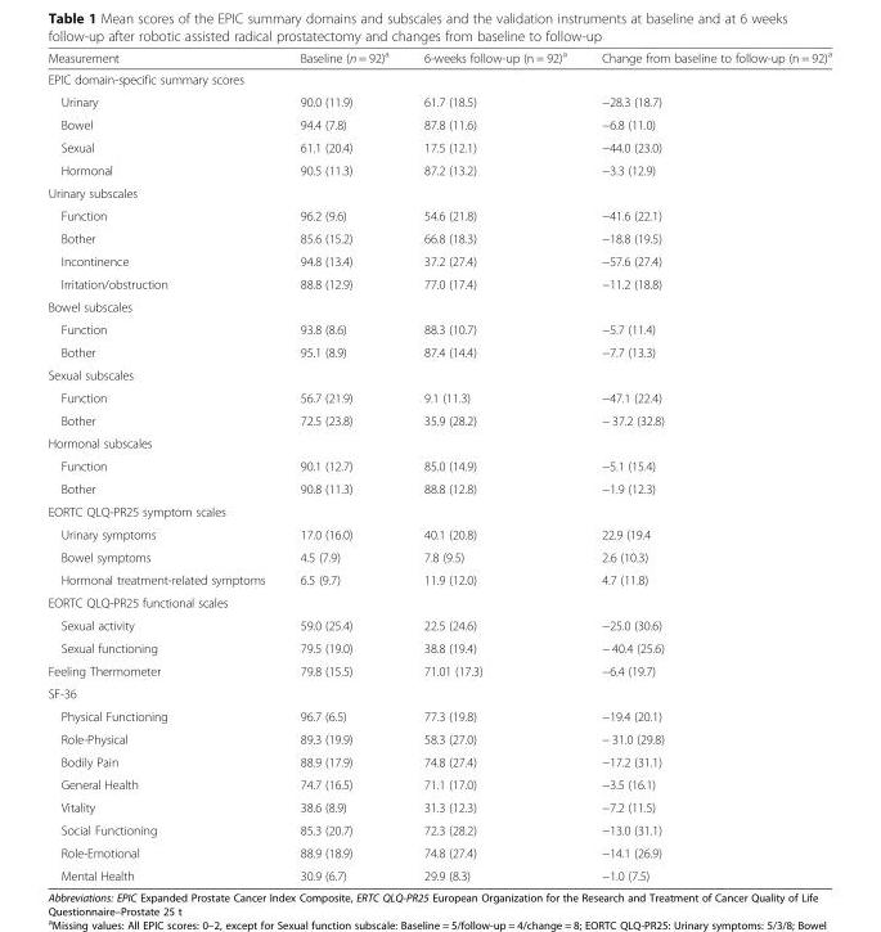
<table><thead><tr><td>Measurement</td><td>Baseline (n = 92)<sup>a</sup></td><td>6-weeks follow-up (n = 92)<sup>a</sup></td><td>Change from baseline to follow-up (n = 92)<sup>a</sup></td></tr></thead><tbody><tr><td colspan="4">EPIC domain-specific summary scores</td></tr><tr><td>Urinary</td><td>90.0 (11.9)</td><td>61.7 (18.5)</td><td>−28.3 (18.7)</td></tr><tr><td>Bowel</td><td>94.4 (7.8)</td><td>87.8 (11.6)</td><td>−6.8 (11.0)</td></tr><tr><td>Sexual</td><td>61.1 (20.4)</td><td>17.5 (12.1)</td><td>−44.0 (23.0)</td></tr><tr><td>Hormonal</td><td>90.5 (11.3)</td><td>87.2 (13.2)</td><td>−3.3 (12.9)</td></tr><tr><td colspan="4">Urinary subscales</td></tr><tr><td>Function</td><td>96.2 (9.6)</td><td>54.6 (21.8)</td><td>−41.6 (22.1)</td></tr><tr><td>Bother</td><td>85.6 (15.2)</td><td>66.8 (18.3)</td><td>−18.8 (19.5)</td></tr><tr><td>Incontinence</td><td>94.8 (13.4)</td><td>37.2 (27.4)</td><td>−57.6 (27.4)</td></tr><tr><td>Irritation/obstruction</td><td>88.8 (12.9)</td><td>77.0 (17.4)</td><td>−11.2 (18.8)</td></tr><tr><td colspan="4">Bowel subscales</td></tr><tr><td>Function</td><td>93.8 (8.6)</td><td>88.3 (10.7)</td><td>−5.7 (11.4)</td></tr><tr><td>Bother</td><td>95.1 (8.9)</td><td>87.4 (14.4)</td><td>−7.7 (13.3)</td></tr><tr><td colspan="4">Sexual subscales</td></tr><tr><td>Function</td><td>56.7 (21.9)</td><td>9.1 (11.3)</td><td>−47.1 (22.4)</td></tr><tr><td>Bother</td><td>72.5 (23.8)</td><td>35.9 (28.2)</td><td>− 37.2 (32.8)</td></tr><tr><td colspan="4">Hormonal subscales</td></tr><tr><td>Function</td><td>90.1 (12.7)</td><td>85.0 (14.9)</td><td>−5.1 (15.4)</td></tr><tr><td>Bother</td><td>90.8 (11.3)</td><td>88.8 (12.8)</td><td>−1.9 (12.3)</td></tr><tr><td colspan="4">EORTC QLQ-PR25 symptom scales</td></tr><tr><td>Urinary symptoms</td><td>17.0 (16.0)</td><td>40.1 (20.8)</td><td>22.9 (19.4</td></tr><tr><td>Bowel symptoms</td><td>4.5 (7.9)</td><td>7.8 (9.5)</td><td>2.6 (10.3)</td></tr><tr><td>Hormonal treatment-related symptoms</td><td>6.5 (9.7)</td><td>11.9 (12.0)</td><td>4.7 (11.8)</td></tr><tr><td colspan="4">EORTC QLQ-PR25 functional scales</td></tr><tr><td>Sexual activity</td><td>59.0 (25.4)</td><td>22.5 (24.6)</td><td>−25.0 (30.6)</td></tr><tr><td>Sexual functioning</td><td>79.5 (19.0)</td><td>38.8 (19.4)</td><td>− 40.4 (25.6)</td></tr><tr><td>Feeling Thermometer</td><td>79.8 (15.5)</td><td>71.01 (17.3)</td><td>−6.4 (19.7)</td></tr><tr><td colspan="4">SF-36</td></tr><tr><td>Physical Functioning</td><td>96.7 (6.5)</td><td>77.3 (19.8)</td><td>−19.4 (20.1)</td></tr><tr><td>Role-Physical</td><td>89.3 (19.9)</td><td>58.3 (27.0)</td><td>− 31.0 (29.8)</td></tr><tr><td>Bodily Pain</td><td>88.9 (17.9)</td><td>74.8 (27.4)</td><td>−17.2 (31.1)</td></tr><tr><td>General Health</td><td>74.7 (16.5)</td><td>71.1 (17.0)</td><td>−3.5 (16.1)</td></tr><tr><td>Vitality</td><td>38.6 (8.9)</td><td>31.3 (12.3)</td><td>−7.2 (11.5)</td></tr><tr><td>Social Functioning</td><td>85.3 (20.7)</td><td>72.3 (28.2)</td><td>−13.0 (31.1)</td></tr><tr><td>Role-Emotional</td><td>88.9 (18.9)</td><td>74.8 (27.4)</td><td>−14.1 (26.9)</td></tr><tr><td>Mental Health</td><td>30.9 (6.7)</td><td>29.9 (8.3)</td><td>−1.0 (7.5)</td></tr></tbody></table>